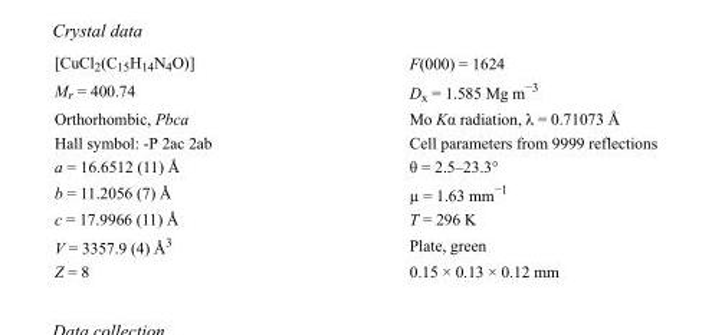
<table><tbody><tr><td>[CuCl<sub>2</sub>(C<sub>15</sub>H<sub>14</sub>N<sub>4</sub>O)]</td><td>F(000) = 1624</td></tr><tr><td>M<sub>r</sub> = 400.74</td><td>D<sub>x</sub> = 1.585 Mg m<sup>−3</sup></td></tr><tr><td>Orthorhombic, Pbca</td><td>Mo Kα radiation, λ = 0.71073 Å</td></tr><tr><td>Hall symbol: -P 2ac 2ab</td><td>Cell parameters from 9999 reflections</td></tr><tr><td>a = 16.6512 (11) Å</td><td>θ = 2.5–23.3°</td></tr><tr><td>b = 11.2056 (7) Å</td><td>µ = 1.63 mm<sup>−1</sup></td></tr><tr><td>c = 17.9966 (11) Å</td><td>T = 296 K</td></tr><tr><td>V = 3357.9 (4) Å<sup>3</sup></td><td>Plate, green</td></tr><tr><td>Z = 8</td><td>0.15 × 0.13 × 0.12 mm</td></tr></tbody></table>